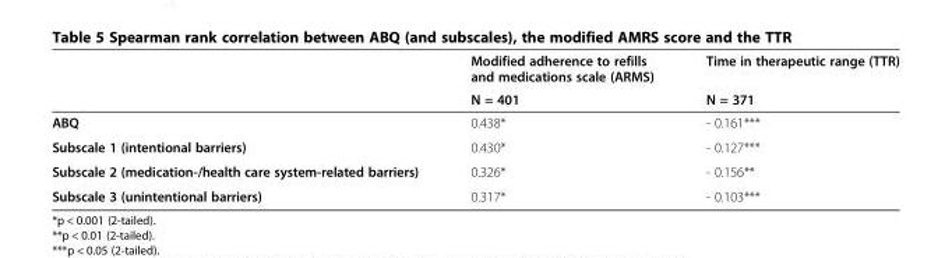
<table><thead><tr><td rowspan="2"></td><td rowspan="2">Modified adherence to refills and medications scale (ARMS) N = 401</td><td rowspan="2">Time in therapeutic range (TTR) N = 371</td></tr><tr></tr></thead><tbody><tr><td>ABQ</td><td>0.438*</td><td>- 0.161***</td></tr><tr><td>Subscale 1 (intentional barriers)</td><td>0.430*</td><td>- 0.127***</td></tr><tr><td>Subscale 2 (medication-/health care system-related barriers)</td><td>0.326*</td><td>- 0.156**</td></tr><tr><td>Subscale 3 (unintentional barriers)</td><td>0.317*</td><td>- 0.103***</td></tr></tbody></table>